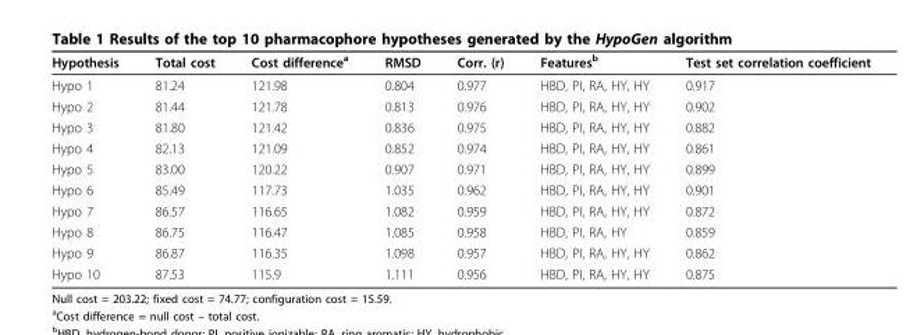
<table><thead><tr><td>Hypothesis</td><td>Total cost</td><td>Cost difference<sup>a</sup></td><td>RMSD</td><td>Corr. (r)</td><td>Features<sup>b</sup></td><td>Test set correlation coefficient</td></tr></thead><tbody><tr><td>Hypo 1</td><td>81.24</td><td>121.98</td><td>0.804</td><td>0.977</td><td>HBD, PI, RA, HY, HY</td><td>0.917</td></tr><tr><td>Hypo 2</td><td>81.44</td><td>121.78</td><td>0.813</td><td>0.976</td><td>HBD, PI, RA, HY, HY</td><td>0.902</td></tr><tr><td>Hypo 3</td><td>81.80</td><td>121.42</td><td>0.836</td><td>0.975</td><td>HBD, PI, RA, HY, HY</td><td>0.882</td></tr><tr><td>Hypo 4</td><td>82.13</td><td>121.09</td><td>0.852</td><td>0.974</td><td>HBD, PI, RA, HY, HY</td><td>0.861</td></tr><tr><td>Hypo 5</td><td>83.00</td><td>120.22</td><td>0.907</td><td>0.971</td><td>HBD, PI, RA, HY, HY</td><td>0.899</td></tr><tr><td>Hypo 6</td><td>85.49</td><td>117.73</td><td>1.035</td><td>0.962</td><td>HBD, PI, RA, HY, HY</td><td>0.901</td></tr><tr><td>Hypo 7</td><td>86.57</td><td>116.65</td><td>1.082</td><td>0.959</td><td>HBD, PI, RA, HY, HY</td><td>0.872</td></tr><tr><td>Hypo 8</td><td>86.75</td><td>116.47</td><td>1.085</td><td>0.958</td><td>HBD, PI, RA, HY</td><td>0.859</td></tr><tr><td>Hypo 9</td><td>86.87</td><td>116.35</td><td>1.098</td><td>0.957</td><td>HBD, PI, RA, HY, HY</td><td>0.862</td></tr><tr><td>Hypo 10</td><td>87.53</td><td>115.9</td><td>1.111</td><td>0.956</td><td>HBD, PI, RA, HY, HY</td><td>0.875</td></tr></tbody></table>